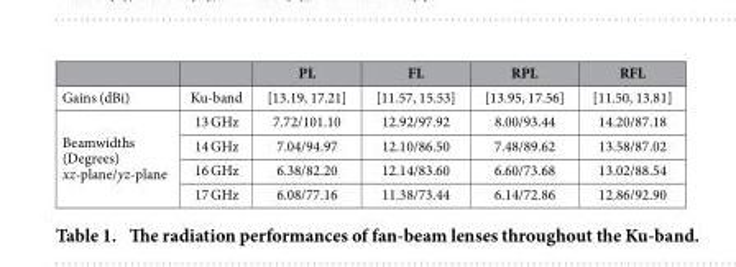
<table><thead><tr><td></td><td></td><td>PL</td><td>FL</td><td>RPL</td><td>RFL</td></tr></thead><tbody><tr><td>Gains (dBi)</td><td>Ku-band</td><td>[13.19, 17.21]</td><td>[11.57, 15.53]</td><td>[13.95, 17.56]</td><td>[11.50, 13.81]</td></tr><tr><td rowspan="4">Beamwidths (Degrees) xz-plane/yz-plane</td><td>13 GHz</td><td>7.72/101.10</td><td>12.92/97.92</td><td>8.00/93.44</td><td>14.20/87.18</td></tr><tr><td>14 GHz</td><td>7.04/94.97</td><td>12.10/86.50</td><td>7.48/89.62</td><td>13.58/87.02</td></tr><tr><td>16 GHz</td><td>6.38/82.20</td><td>12.14/83.60</td><td>6.60/73.68</td><td>13.02/88.54</td></tr><tr><td>17 GHz</td><td>6.08/77.16</td><td>11.38/73.44</td><td>6.14/72.86</td><td>12.86/92.90</td></tr></tbody></table>